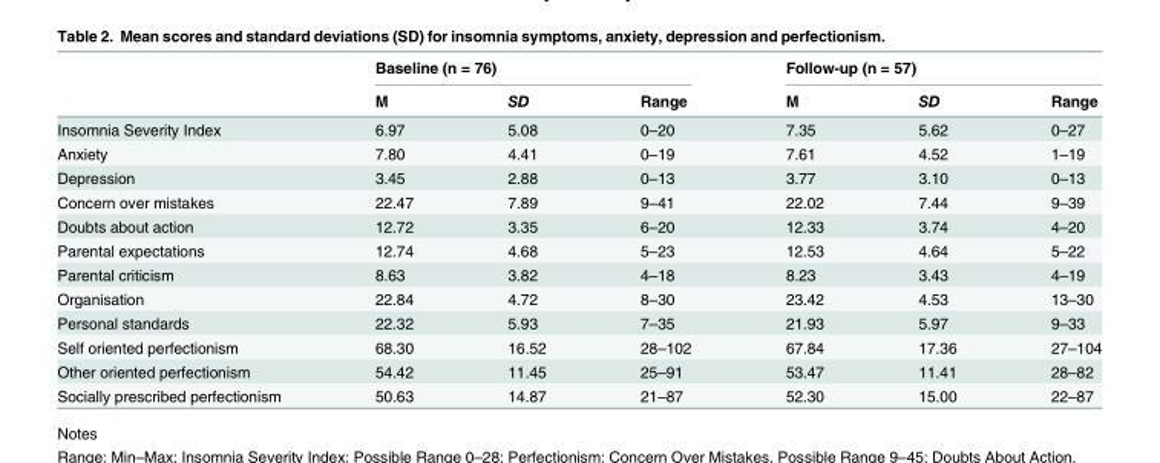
<table><thead><tr><td rowspan="2"></td><td colspan="3">Baseline (n = 76)</td><td colspan="3">Follow-up (n = 57)</td></tr><tr><td>M</td><td>SD</td><td>Range</td><td>M</td><td>SD</td><td>Range</td></tr></thead><tbody><tr><td>Insomnia Severity Index</td><td>6.97</td><td>5.08</td><td>0–20</td><td>7.35</td><td>5.62</td><td>0–27</td></tr><tr><td>Anxiety</td><td>7.80</td><td>4.41</td><td>0–19</td><td>7.61</td><td>4.52</td><td>1–19</td></tr><tr><td>Depression</td><td>3.45</td><td>2.88</td><td>0–13</td><td>3.77</td><td>3.10</td><td>0–13</td></tr><tr><td>Concern over mistakes</td><td>22.47</td><td>7.89</td><td>9–41</td><td>22.02</td><td>7.44</td><td>9–39</td></tr><tr><td>Doubts about action</td><td>12.72</td><td>3.35</td><td>6–20</td><td>12.33</td><td>3.74</td><td>4–20</td></tr><tr><td>Parental expectations</td><td>12.74</td><td>4.68</td><td>5–23</td><td>12.53</td><td>4.64</td><td>5–22</td></tr><tr><td>Parental criticism</td><td>8.63</td><td>3.82</td><td>4–18</td><td>8.23</td><td>3.43</td><td>4–19</td></tr><tr><td>Organisation</td><td>22.84</td><td>4.72</td><td>8–30</td><td>23.42</td><td>4.53</td><td>13–30</td></tr><tr><td>Personal standards</td><td>22.32</td><td>5.93</td><td>7–35</td><td>21.93</td><td>5.97</td><td>9–33</td></tr><tr><td>Self oriented perfectionism</td><td>68.30</td><td>16.52</td><td>28–102</td><td>67.84</td><td>17.36</td><td>27–104</td></tr><tr><td>Other oriented perfectionism</td><td>54.42</td><td>11.45</td><td>25–91</td><td>53.47</td><td>11.41</td><td>28–82</td></tr><tr><td>Socially prescribed perfectionism</td><td>50.63</td><td>14.87</td><td>21–87</td><td>52.30</td><td>15.00</td><td>22–87</td></tr></tbody></table>